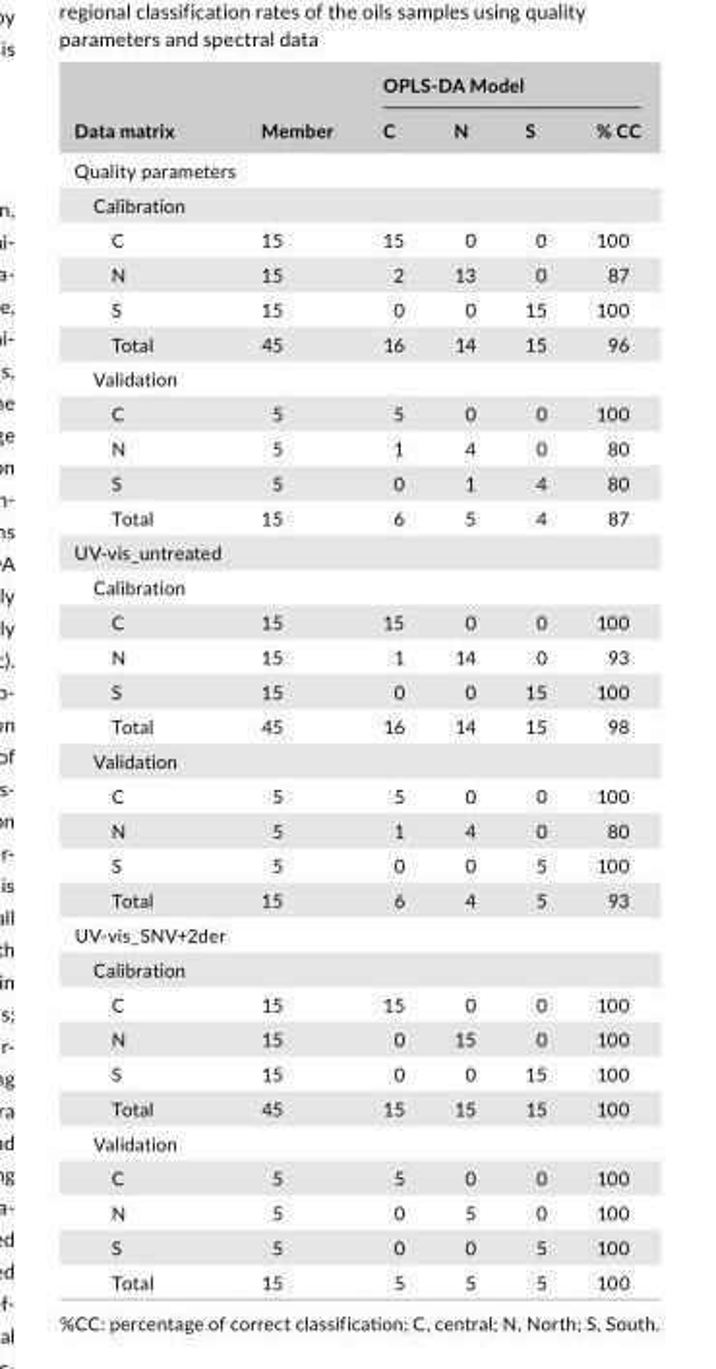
<table><thead><tr><td rowspan="2">Data matrix</td><td rowspan="2">Member</td><td colspan="4">OPLS- DA Model</td></tr><tr><td>C</td><td>N</td><td>S</td><td>% CC</td></tr></thead><tbody><tr><td colspan="6">Quality parameters</td></tr><tr><td colspan="6">Calibration</td></tr><tr><td>C</td><td>15</td><td>15</td><td>0</td><td>0</td><td>100</td></tr><tr><td>N</td><td>15</td><td>2</td><td>13</td><td>0</td><td>87</td></tr><tr><td>S</td><td>15</td><td>0</td><td>0</td><td>15</td><td>100</td></tr><tr><td>Total</td><td>45</td><td>16</td><td>14</td><td>15</td><td>96</td></tr><tr><td colspan="6">Validation</td></tr><tr><td>C</td><td>5</td><td>5</td><td>0</td><td>0</td><td>100</td></tr><tr><td>N</td><td>5</td><td>1</td><td>4</td><td>0</td><td>80</td></tr><tr><td>S</td><td>5</td><td>0</td><td>1</td><td>4</td><td>80</td></tr><tr><td>Total</td><td>15</td><td>6</td><td>5</td><td>4</td><td>87</td></tr><tr><td colspan="6">UV- vis_untreated</td></tr><tr><td colspan="6">Calibration</td></tr><tr><td>C</td><td>15</td><td>15</td><td>0</td><td>0</td><td>100</td></tr><tr><td>N</td><td>15</td><td>1</td><td>14</td><td>0</td><td>93</td></tr><tr><td>S</td><td>15</td><td>0</td><td>0</td><td>15</td><td>100</td></tr><tr><td>Total</td><td>45</td><td>16</td><td>14</td><td>15</td><td>98</td></tr><tr><td colspan="6">Validation</td></tr><tr><td>C</td><td>5</td><td>5</td><td>0</td><td>0</td><td>100</td></tr><tr><td>N</td><td>5</td><td>1</td><td>4</td><td>0</td><td>80</td></tr><tr><td>S</td><td>5</td><td>0</td><td>0</td><td>5</td><td>100</td></tr><tr><td>Total</td><td>15</td><td>6</td><td>4</td><td>5</td><td>93</td></tr><tr><td colspan="6">UV- vis_SNV+2der</td></tr><tr><td colspan="6">Calibration</td></tr><tr><td>C</td><td>15</td><td>15</td><td>0</td><td>0</td><td>100</td></tr><tr><td>N</td><td>15</td><td>0</td><td>15</td><td>0</td><td>100</td></tr><tr><td>S</td><td>15</td><td>0</td><td>0</td><td>15</td><td>100</td></tr><tr><td>Total</td><td>45</td><td>15</td><td>15</td><td>15</td><td>100</td></tr><tr><td colspan="6">Validation</td></tr><tr><td>C</td><td>5</td><td>5</td><td>0</td><td>0</td><td>100</td></tr><tr><td>N</td><td>5</td><td>0</td><td>5</td><td>0</td><td>100</td></tr><tr><td>S</td><td>5</td><td>0</td><td>0</td><td>5</td><td>100</td></tr><tr><td>Total</td><td>15</td><td>5</td><td>5</td><td>5</td><td>100</td></tr></tbody></table>